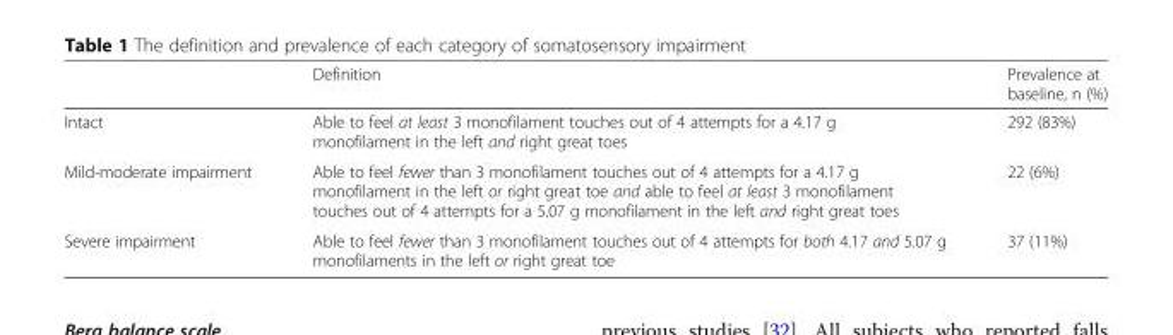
<table><thead><tr><td></td><td>Definition</td><td>Prevalence at baseline, n (%)</td></tr></thead><tbody><tr><td>Intact</td><td>Able to feel at least 3 monofilament touches out of 4 attempts for a 4.17 g monofilament in the left and right great toes</td><td>292 (83%)</td></tr><tr><td>Mild-moderate impairment</td><td>Able to feel fewer than 3 monofilament touches out of 4 attempts for a 4.17 g monofilament in the left or right great toe and able to feel at least 3 monofilament touches out of 4 attempts for a 5.07 g monofilament in the left and right great toes</td><td>22 (6%)</td></tr><tr><td>Severe impairment</td><td>Able to feel fewer than 3 monofilament touches out of 4 attempts for both 4.17 and 5.07 g monofilaments in the left or right great toe</td><td>37 (11%)</td></tr></tbody></table>